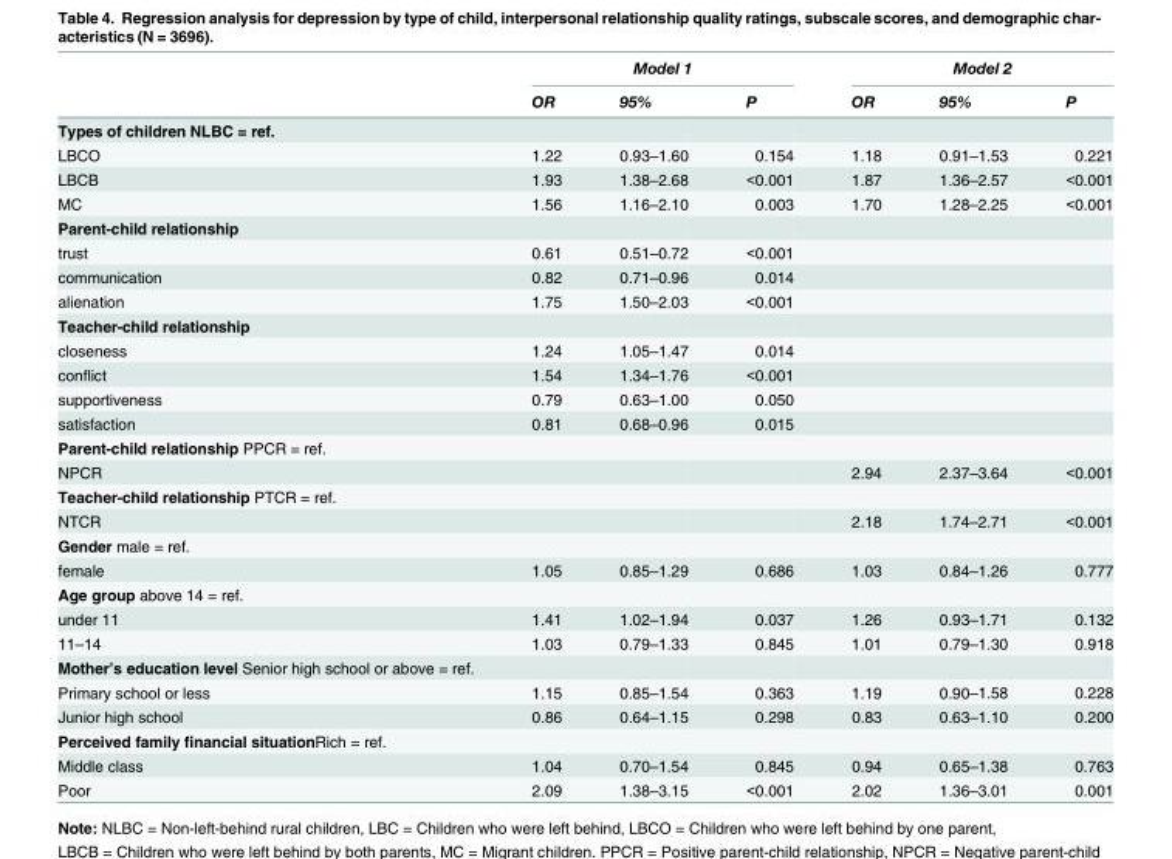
<table><thead><tr><td rowspan="2"></td><td colspan="3">Model 1</td><td colspan="3">Model 2</td></tr><tr><td>OR</td><td>95%</td><td>P</td><td>OR</td><td>95%</td><td>P</td></tr></thead><tbody><tr><td colspan="7">Types of children NLBC = ref.</td></tr><tr><td>LBCO</td><td>1.22</td><td>0.93–1.60</td><td>0.154</td><td>1.18</td><td>0.91–1.53</td><td>0.221</td></tr><tr><td>LBCB</td><td>1.93</td><td>1.38–2.68</td><td>&lt;0.001</td><td>1.87</td><td>1.36–2.57</td><td>&lt;0.001</td></tr><tr><td>MC</td><td>1.56</td><td>1.16–2.10</td><td>0.003</td><td>1.70</td><td>1.28–2.25</td><td>&lt;0.001</td></tr><tr><td colspan="7">Parent-child relationship</td></tr><tr><td>trust</td><td>0.61</td><td>0.51–0.72</td><td>&lt;0.001</td><td></td><td></td><td></td></tr><tr><td>communication</td><td>0.82</td><td>0.71–0.96</td><td>0.014</td><td></td><td></td><td></td></tr><tr><td>alienation</td><td>1.75</td><td>1.50–2.03</td><td>&lt;0.001</td><td></td><td></td><td></td></tr><tr><td colspan="7">Teacher-child relationship</td></tr><tr><td>closeness</td><td>1.24</td><td>1.05–1.47</td><td>0.014</td><td></td><td></td><td></td></tr><tr><td>conflict</td><td>1.54</td><td>1.34–1.76</td><td>&lt;0.001</td><td></td><td></td><td></td></tr><tr><td>supportiveness</td><td>0.79</td><td>0.63–1.00</td><td>0.050</td><td></td><td></td><td></td></tr><tr><td>satisfaction</td><td>0.81</td><td>0.68–0.96</td><td>0.015</td><td></td><td></td><td></td></tr><tr><td colspan="7">Parent-child relationship PPCR = ref.</td></tr><tr><td>NPCR</td><td></td><td></td><td></td><td>2.94</td><td>2.37–3.64</td><td>&lt;0.001</td></tr><tr><td colspan="7">Teacher-child relationship PTCR = ref.</td></tr><tr><td>NTCR</td><td></td><td></td><td></td><td>2.18</td><td>1.74–2.71</td><td>&lt;0.001</td></tr><tr><td colspan="7">Gender male = ref.</td></tr><tr><td>female</td><td>1.05</td><td>0.85–1.29</td><td>0.686</td><td>1.03</td><td>0.84–1.26</td><td>0.777</td></tr><tr><td colspan="7">Age group above 14 = ref.</td></tr><tr><td>under 11</td><td>1.41</td><td>1.02–1.94</td><td>0.037</td><td>1.26</td><td>0.93–1.71</td><td>0.132</td></tr><tr><td>11–14</td><td>1.03</td><td>0.79–1.33</td><td>0.845</td><td>1.01</td><td>0.79–1.30</td><td>0.918</td></tr><tr><td colspan="7">Mother’s education level Senior high school or above = ref.</td></tr><tr><td>Primary school or less</td><td>1.15</td><td>0.85–1.54</td><td>0.363</td><td>1.19</td><td>0.90–1.58</td><td>0.228</td></tr><tr><td>Junior high school</td><td>0.86</td><td>0.64–1.15</td><td>0.298</td><td>0.83</td><td>0.63–1.10</td><td>0.200</td></tr><tr><td colspan="7">Perceived family financial situationRich = ref.</td></tr><tr><td>Middle class</td><td>1.04</td><td>0.70–1.54</td><td>0.845</td><td>0.94</td><td>0.65–1.38</td><td>0.763</td></tr><tr><td>Poor</td><td>2.09</td><td>1.38–3.15</td><td>&lt;0.001</td><td>2.02</td><td>1.36–3.01</td><td>0.001</td></tr></tbody></table>